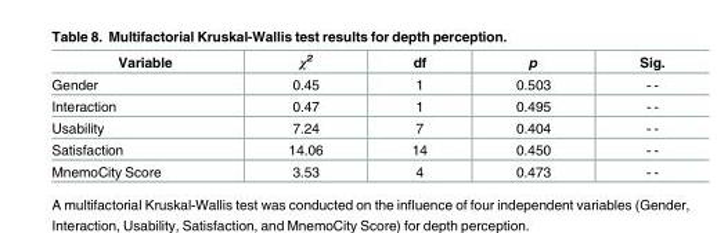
<table><thead><tr><td>Variable</td><td>χ<sup>2</sup></td><td>df</td><td>p</td><td>Sig.</td></tr></thead><tbody><tr><td>Gender</td><td>0.45</td><td>1</td><td>0.503</td><td>- -</td></tr><tr><td>Interaction</td><td>0.47</td><td>1</td><td>0.495</td><td>- -</td></tr><tr><td>Usability</td><td>7.24</td><td>7</td><td>0.404</td><td>- -</td></tr><tr><td>Satisfaction</td><td>14.06</td><td>14</td><td>0.450</td><td>- -</td></tr><tr><td>MnemoCity Score</td><td>3.53</td><td>4</td><td>0.473</td><td>- -</td></tr></tbody></table>